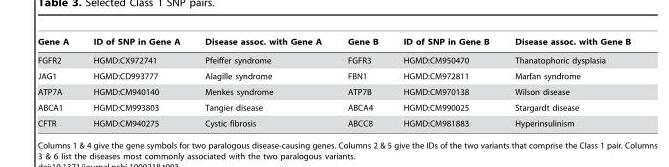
<table><thead><tr><td>Gene A</td><td>ID of SNP in Gene A</td><td>Disease assoc. with Gene A</td><td>Gene B</td><td>ID of SNP in Gene B</td><td>Disease assoc. with Gene B</td></tr></thead><tbody><tr><td>FGFR2</td><td>HGMD:CX972741</td><td>Pfeiffer syndrome</td><td>FGFR3</td><td>HGMD:CM950470</td><td>Thanatophoric dysplasia</td></tr><tr><td>JAG1</td><td>HGMD:CD993777</td><td>Alagille syndrome</td><td>FBN1</td><td>HGMD:CM972811</td><td>Marfan syndrome</td></tr><tr><td>ATP7A</td><td>HGMD:CM940140</td><td>Menkes syndrome</td><td>ATP7B</td><td>HGMD:CM970138</td><td>Wilson disease</td></tr><tr><td>ABCA1</td><td>HGMD:CM993803</td><td>Tangier disease</td><td>ABCA4</td><td>HGMD:CM990025</td><td>Stargardt disease</td></tr><tr><td>CFTR</td><td>HGMD:CM940275</td><td>Cystic fibrosis</td><td>ABCC8</td><td>HGMD:CM981883</td><td>Hyperinsulinism</td></tr></tbody></table>